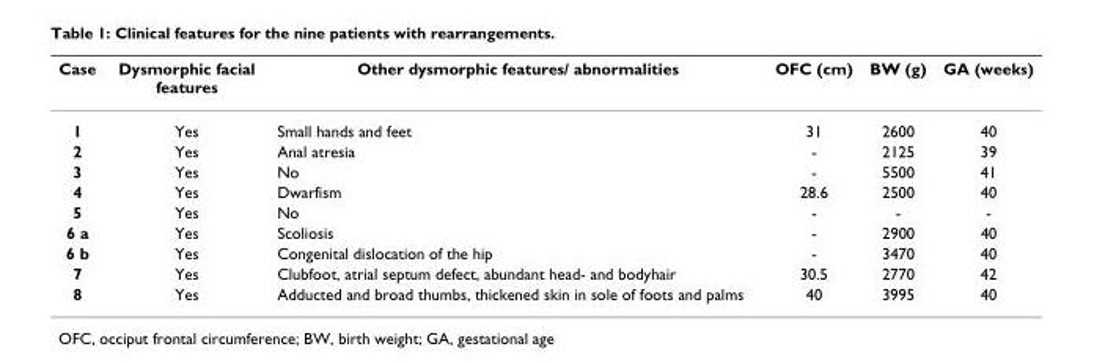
<table><thead><tr><td>Case</td><td>Dysmorphic facial features</td><td>Other dysmorphic features/ abnormalities</td><td>OFC (cm)</td><td>BW (g)</td><td>GA (weeks)</td></tr></thead><tbody><tr><td>1</td><td>Yes</td><td>Small hands and feet</td><td>31</td><td>2600</td><td>40</td></tr><tr><td>2</td><td>Yes</td><td>Anal atresia</td><td>-</td><td>2125</td><td>39</td></tr><tr><td>3</td><td>Yes</td><td>No</td><td>-</td><td>5500</td><td>41</td></tr><tr><td>4</td><td>Yes</td><td>Dwarfism</td><td>28.6</td><td>2500</td><td>40</td></tr><tr><td>5</td><td>Yes</td><td>No</td><td>-</td><td>-</td><td>-</td></tr><tr><td>6 a</td><td>Yes</td><td>Scoliosis</td><td>-</td><td>2900</td><td>40</td></tr><tr><td>6 b</td><td>Yes</td><td>Congenital dislocation of the hip</td><td>-</td><td>3470</td><td>40</td></tr><tr><td>7</td><td>Yes</td><td>Clubfoot, atrial septum defect, abundant head- and bodyhair</td><td>30.5</td><td>2770</td><td>42</td></tr><tr><td>8</td><td>Yes</td><td>Adducted and broad thumbs, thickened skin in sole of foots and palms</td><td>40</td><td>3995</td><td>40</td></tr></tbody></table>